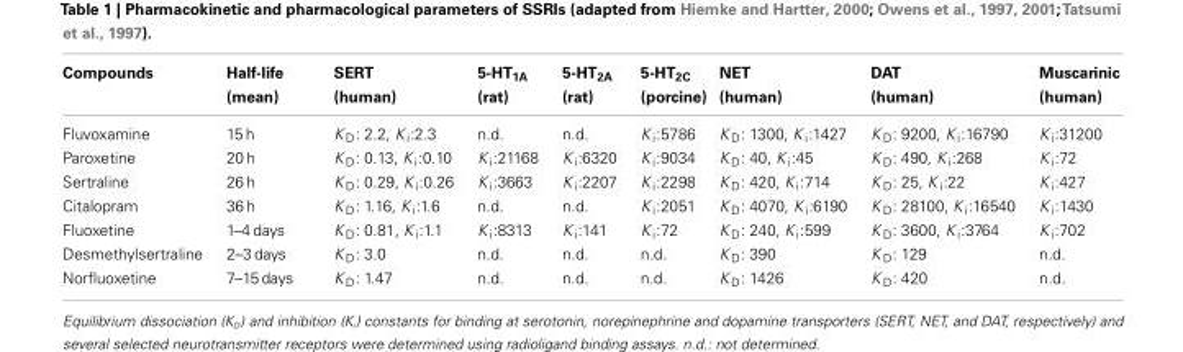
<table><thead><tr><td>Compounds</td><td>Half-life (mean)</td><td>SERT (human)</td><td>5-HT<sub>1A</sub> (rat)</td><td>5-HT<sub>2A</sub> (rat)</td><td>5-HT<sub>2C</sub> (porcine)</td><td>NET (human)</td><td>DAT (human)</td><td>Muscarinic (human)</td></tr></thead><tbody><tr><td>Fluvoxamine</td><td>15 h</td><td>K <sub>D</sub>: 2.2, K <sub>i</sub>:2.3</td><td>n.d.</td><td>n.d.</td><td>K <sub>i</sub>:5786</td><td>K <sub>D</sub>: 1300, K <sub>i</sub>:1427</td><td>K <sub>D</sub>: 9200, K <sub>i</sub>:16790</td><td>K <sub>i</sub>:31200</td></tr><tr><td>Paroxetine</td><td>20 h</td><td>K <sub>D</sub>: 0.13, K <sub>i</sub>:0.10</td><td>K <sub>i</sub>:21168</td><td>K <sub>i</sub>:6320</td><td>K <sub>i</sub>:9034</td><td>K <sub>D</sub>: 40, K <sub>i</sub>:45</td><td>K <sub>D</sub>: 490, K <sub>i</sub>:268</td><td>K <sub>i</sub>:72</td></tr><tr><td>Sertraline</td><td>26 h</td><td>K <sub>D</sub>: 0.29, K <sub>i</sub>:0.26</td><td>K <sub>i</sub>:3663</td><td>K <sub>i</sub>:2207</td><td>K <sub>i</sub>:2298</td><td>K <sub>D</sub>: 420, K <sub>i</sub>:714</td><td>K <sub>D</sub>: 25, K <sub>i</sub>:22</td><td>K <sub>i</sub>:427</td></tr><tr><td>Citalopram</td><td>36 h</td><td>K <sub>D</sub>: 1.16, K <sub>i</sub>:1.6</td><td>n.d.</td><td>n.d.</td><td>K <sub>i</sub>:2051</td><td>K <sub>D</sub>: 4070, K <sub>i</sub>:6190</td><td>K <sub>D</sub>: 28100, K <sub>i</sub>:16540</td><td>K <sub>i</sub>:1430</td></tr><tr><td>Fluoxetine</td><td>1–4 days</td><td>K <sub>D</sub>: 0.81, K <sub>i</sub>:1.1</td><td>K <sub>i</sub>:8313</td><td>K <sub>i</sub>:141</td><td>K <sub>i</sub>:72</td><td>K <sub>D</sub>: 240, K <sub>i</sub>:599</td><td>K <sub>D</sub>: 3600, K <sub>i</sub>:3764</td><td>K <sub>i</sub>:702</td></tr><tr><td>Desmethylsertraline</td><td>2–3 days</td><td>K <sub>D</sub>: 3.0</td><td>n.d.</td><td>n.d.</td><td>n.d.</td><td>K <sub>D</sub>: 390</td><td>K <sub>D</sub>: 129</td><td>n.d.</td></tr><tr><td>Norfluoxetine</td><td>7–15 days</td><td>K <sub>D</sub>: 1.47</td><td>n.d.</td><td>n.d.</td><td>n.d.</td><td>K <sub>D</sub>: 1426</td><td>K <sub>D</sub>: 420</td><td>n.d.</td></tr></tbody></table>